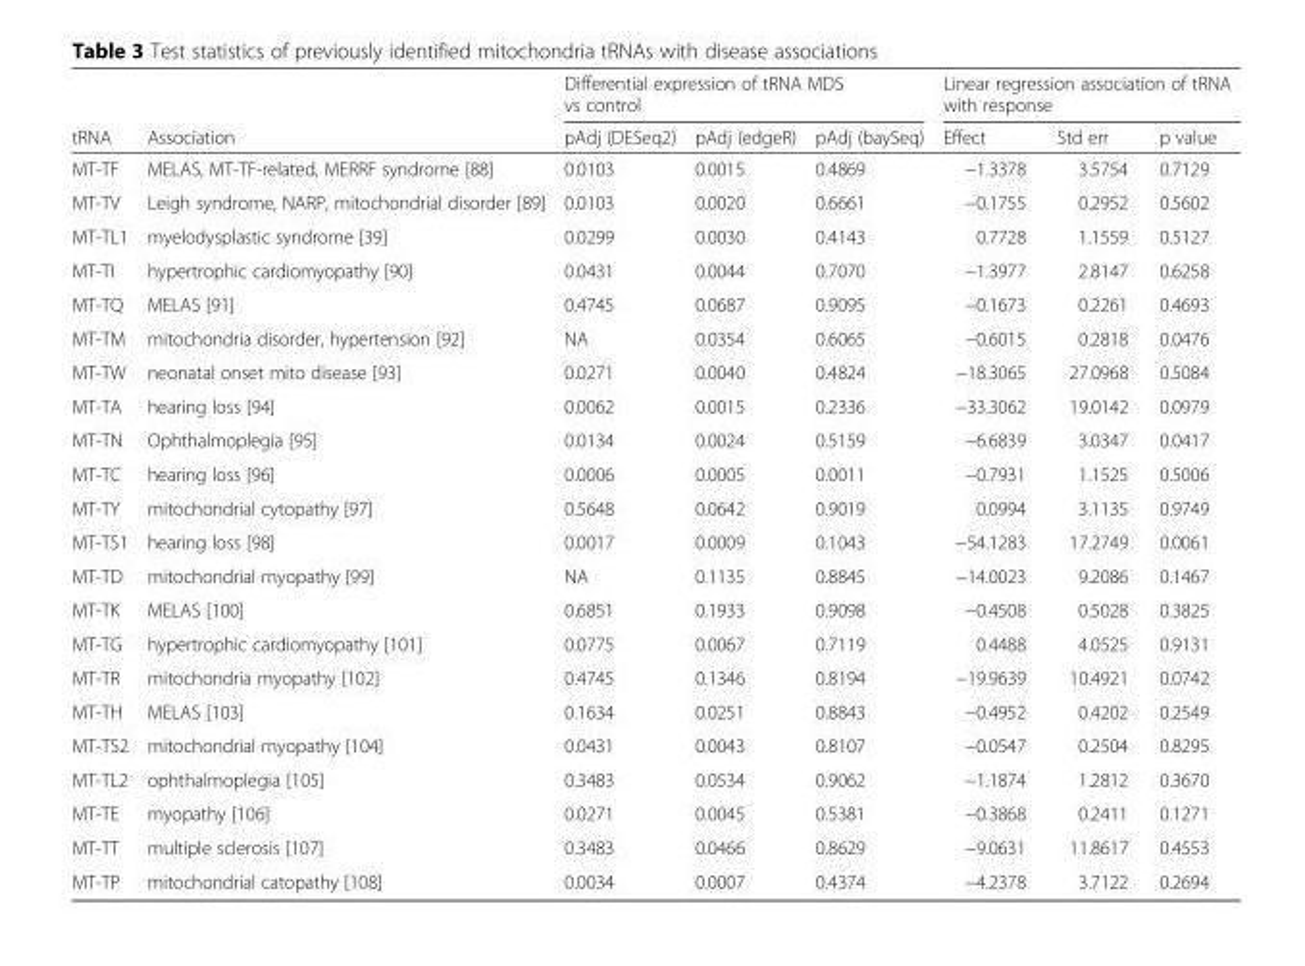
<table><thead><tr><td rowspan="2">tRNA</td><td rowspan="2">Association</td><td colspan="3">Differential expression of tRNA MDS vs control</td><td colspan="3">Linear regression association of tRNA with response</td></tr><tr><td>pAdj (DESeq2)</td><td>pAdj (edgeR)</td><td>pAdj (baySeq)</td><td>Effect</td><td>Std err</td><td>p value</td></tr></thead><tbody><tr><td>MT-TF</td><td>MELAS, MT-TF-related, MERRF syndrome [88]</td><td>0.0103</td><td>0.0015</td><td>0.4869</td><td>−1.3378</td><td>3.5754</td><td>0.7129</td></tr><tr><td>MT-TV</td><td>Leigh syndrome, NARP, mitochondrial disorder [89]</td><td>0.0103</td><td>0.0020</td><td>0.6661</td><td>−0.1755</td><td>0.2952</td><td>0.5602</td></tr><tr><td>MT-TL1</td><td>myelodysplastic syndrome [39]</td><td>0.0299</td><td>0.0030</td><td>0.4143</td><td>0.7728</td><td>1.1559</td><td>0.5127</td></tr><tr><td>MT-TI</td><td>hypertrophic cardiomyopathy [90]</td><td>0.0431</td><td>0.0044</td><td>0.7070</td><td>−1.3977</td><td>2.8147</td><td>0.6258</td></tr><tr><td>MT-TQ</td><td>MELAS [91]</td><td>0.4745</td><td>0.0687</td><td>0.9095</td><td>−0.1673</td><td>0.2261</td><td>0.4693</td></tr><tr><td>MT-TM</td><td>mitochondria disorder, hypertension [92]</td><td>NA</td><td>0.0354</td><td>0.6065</td><td>−0.6015</td><td>0.2818</td><td>0.0476</td></tr><tr><td>MT-TW</td><td>neonatal onset mito disease [93]</td><td>0.0271</td><td>0.0040</td><td>0.4824</td><td>−18.3065</td><td>27.0968</td><td>0.5084</td></tr><tr><td>MT-TA</td><td>hearing loss [94]</td><td>0.0062</td><td>0.0015</td><td>0.2336</td><td>−33.3062</td><td>19.0142</td><td>0.0979</td></tr><tr><td>MT-TN</td><td>Ophthalmoplegia [95]</td><td>0.0134</td><td>0.0024</td><td>0.5159</td><td>−6.6839</td><td>3.0347</td><td>0.0417</td></tr><tr><td>MT-TC</td><td>hearing loss [96]</td><td>0.0006</td><td>0.0005</td><td>0.0011</td><td>−0.7931</td><td>1.1525</td><td>0.5006</td></tr><tr><td>MT-TY</td><td>mitochondrial cytopathy [97]</td><td>0.5648</td><td>0.0642</td><td>0.9019</td><td>0.0994</td><td>3.1135</td><td>0.9749</td></tr><tr><td>MT-TS1</td><td>hearing loss [98]</td><td>0.0017</td><td>0.0009</td><td>0.1043</td><td>−54.1283</td><td>17.2749</td><td>0.0061</td></tr><tr><td>MT-TD</td><td>mitochondrial myopathy [99]</td><td>NA</td><td>0.1135</td><td>0.8845</td><td>−14.0023</td><td>9.2086</td><td>0.1467</td></tr><tr><td>MT-TK</td><td>MELAS [100]</td><td>0.6851</td><td>0.1933</td><td>0.9098</td><td>−0.4508</td><td>0.5028</td><td>0.3825</td></tr><tr><td>MT-TG</td><td>hypertrophic cardiomyopathy [101]</td><td>0.0775</td><td>0.0067</td><td>0.7119</td><td>0.4488</td><td>4.0525</td><td>0.9131</td></tr><tr><td>MT-TR</td><td>mitochondria myopathy [102]</td><td>0.4745</td><td>0.1346</td><td>0.8194</td><td>−19.9639</td><td>10.4921</td><td>0.0742</td></tr><tr><td>MT-TH</td><td>MELAS [103]</td><td>0.1634</td><td>0.0251</td><td>0.8843</td><td>−0.4952</td><td>0.4202</td><td>0.2549</td></tr><tr><td>MT-TS2</td><td>mitochondrial myopathy [104]</td><td>0.0431</td><td>0.0043</td><td>0.8107</td><td>−0.0547</td><td>0.2504</td><td>0.8295</td></tr><tr><td>MT-TL2</td><td>ophthalmoplegia [105]</td><td>0.3483</td><td>0.0534</td><td>0.9062</td><td>−1.1874</td><td>1.2812</td><td>0.3670</td></tr><tr><td>MT-TE</td><td>myopathy [106]</td><td>0.0271</td><td>0.0045</td><td>0.5381</td><td>−0.3868</td><td>0.2411</td><td>0.1271</td></tr><tr><td>MT-TT</td><td>multiple sclerosis [107]</td><td>0.3483</td><td>0.0466</td><td>0.8629</td><td>−9.0631</td><td>11.8617</td><td>0.4553</td></tr><tr><td>MT-TP</td><td>mitochondrial catopathy [108]</td><td>0.0034</td><td>0.0007</td><td>0.4374</td><td>−4.2378</td><td>3.7122</td><td>0.2694</td></tr></tbody></table>